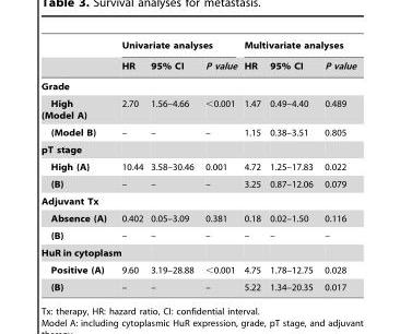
<table><thead><tr><td rowspan="2"></td><td colspan="3">Univariate analyses</td><td colspan="3">Multivariate analyses</td></tr><tr><td>HR</td><td>95% CI</td><td>P value</td><td>HR</td><td>95% CI</td><td>P value</td></tr></thead><tbody><tr><td colspan="7">Grade</td></tr><tr><td>High (Model A)</td><td>2.70</td><td>1.56–4.66</td><td>&lt;0.001</td><td>1.47</td><td>0.49–4.40</td><td>0.489</td></tr><tr><td>(Model B)</td><td>–</td><td>–</td><td>–</td><td>1.15</td><td>0.38–3.51</td><td>0.805</td></tr><tr><td colspan="7">pT stage</td></tr><tr><td>High (A)</td><td>10.44</td><td>3.58–30.46</td><td>0.001</td><td>4.72</td><td>1.25–17.83</td><td>0.022</td></tr><tr><td>(B)</td><td>–</td><td>–</td><td>–</td><td>3.25</td><td>0.87–12.06</td><td>0.079</td></tr><tr><td colspan="7">Adjuvant Tx</td></tr><tr><td>Absence (A)</td><td>0.402</td><td>0.05–3.09</td><td>0.381</td><td>0.18</td><td>0.02–1.50</td><td>0.116</td></tr><tr><td>(B)</td><td>–</td><td>–</td><td>–</td><td>–</td><td>–</td><td>–</td></tr><tr><td colspan="7">HuR in cytoplasm</td></tr><tr><td>Positive (A)</td><td>9.60</td><td>3.19–28.88</td><td>&lt;0.001</td><td>4.75</td><td>1.78–12.75</td><td>0.028</td></tr><tr><td>(B)</td><td>–</td><td>–</td><td>–</td><td>5.22</td><td>1.34–20.35</td><td>0.017</td></tr></tbody></table>